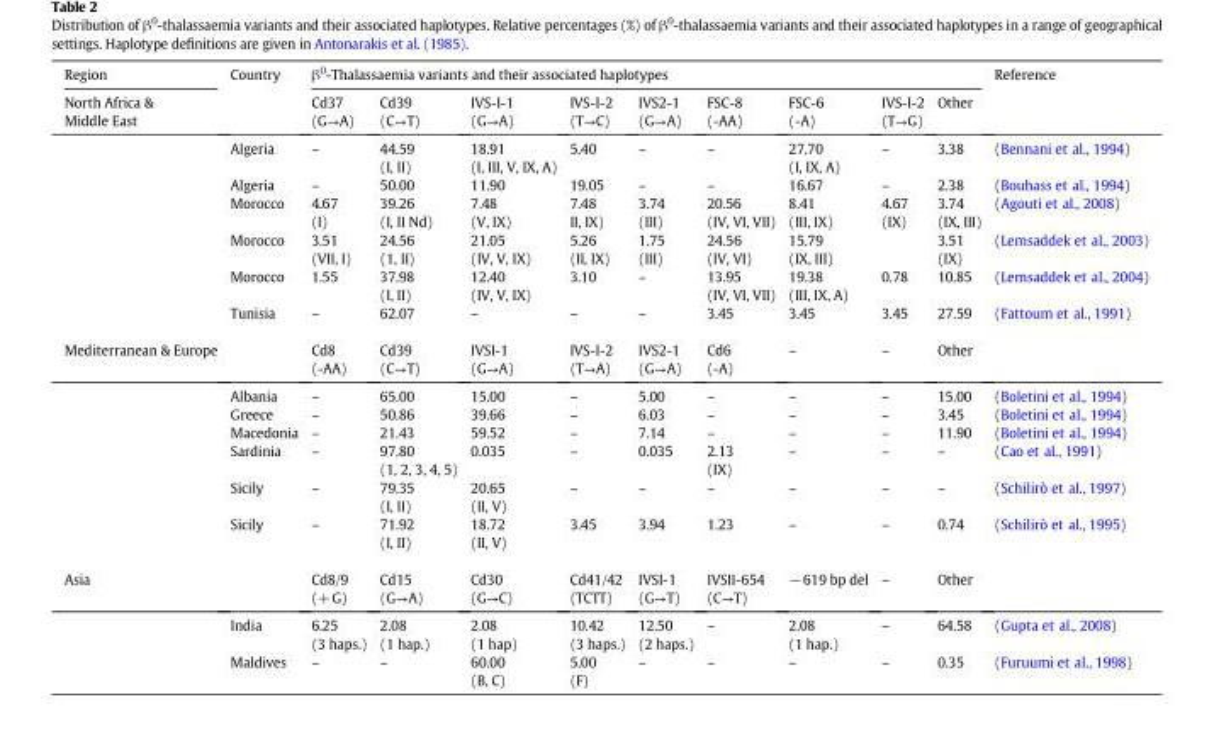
<table><thead><tr><td rowspan="2">Region North Africa &amp; Middle East</td><td rowspan="2">Country</td><td colspan="9">β<sup>0</sup>-Thalassaemia variants and their associated haplotypes</td><td rowspan="2">Reference</td></tr><tr><td>Cd37 (G→A)</td><td>Cd39 (C→T)</td><td>IVS-I-1 (G→A)</td><td>IVS-I-2 (T→C)</td><td>IVS2-1 (G→A)</td><td>FSC-8 (-AA)</td><td>FSC-6 (-A)</td><td>IVS-I-2 (T→G)</td><td>Other</td></tr></thead><tbody><tr><td></td><td>Algeria</td><td>–</td><td>44.59 (I, II)</td><td>18.91 (I, III, V, IX, A)</td><td>5.40</td><td>–</td><td>–</td><td>27.70 (I, IX, A)</td><td>–</td><td>3.38</td><td>(Bennani et al., 1994)</td></tr><tr><td></td><td>Algeria</td><td>–</td><td>50.00</td><td>11.90</td><td>19.05</td><td>–</td><td>–</td><td>16.67</td><td>–</td><td>2.38</td><td>(Bouhass et al., 1994)</td></tr><tr><td></td><td>Morocco</td><td>4.67 (I)</td><td>39.26 (I, II Nd)</td><td>7.48 (V, IX)</td><td>7.48 II, IX)</td><td>3.74 (III)</td><td>20.56 (IV, VI, VII)</td><td>8.41 (III, IX)</td><td>4.67 (IX)</td><td>3.74 (IX, III)</td><td>(Agouti et al., 2008)</td></tr><tr><td></td><td>Morocco</td><td>3.51 (VII, I)</td><td>24.56 (1, II)</td><td>21.05 (IV, V, IX)</td><td>5.26 (II, IX)</td><td>1.75 (III)</td><td>24.56 (IV, VI)</td><td>15.79 (IX, III)</td><td></td><td>3.51 (IX)</td><td>(Lemsaddek et al., 2003)</td></tr><tr><td></td><td>Morocco</td><td>1.55</td><td>37.98 (I, II)</td><td>12.40 (IV, V, IX)</td><td>3.10</td><td>–</td><td>13.95 (IV, VI, VII)</td><td>19.38 (III, IX, A)</td><td>0.78</td><td>10.85</td><td>(Lemsaddek et al., 2004)</td></tr><tr><td></td><td>Tunisia</td><td>–</td><td>62.07</td><td>–</td><td>–</td><td>–</td><td>3.45</td><td>3.45</td><td>3.45</td><td>27.59</td><td>(Fattoum et al., 1991)</td></tr><tr><td rowspan="7">Mediterranean &amp; Europe</td><td></td><td>Cd8 (-AA)</td><td>Cd39 (C→T)</td><td>IVSI-1 (G→A)</td><td>IVS-I-2 (T→A)</td><td>IVS2-1 (G→A)</td><td>Cd6 (-A)</td><td>–</td><td>–</td><td>Other</td><td></td></tr><tr><td>Albania</td><td>–</td><td>65.00</td><td>15.00</td><td>–</td><td>5.00</td><td>–</td><td>–</td><td>–</td><td>15.00</td><td>(Boletini et al., 1994)</td></tr><tr><td>Greece</td><td>–</td><td>50.86</td><td>39.66</td><td>–</td><td>6.03</td><td>–</td><td>–</td><td>–</td><td>3.45</td><td>(Boletini et al., 1994)</td></tr><tr><td>Macedonia</td><td>–</td><td>21.43</td><td>59.52</td><td>–</td><td>7.14</td><td>–</td><td>–</td><td>–</td><td>11.90</td><td>(Boletini et al., 1994)</td></tr><tr><td>Sardinia</td><td>–</td><td>97.80 (1, 2, 3, 4, 5)</td><td>0.035</td><td>–</td><td>0.035</td><td>2.13 (IX)</td><td>–</td><td>–</td><td>–</td><td>(Cao et al., 1991)</td></tr><tr><td>Sicily</td><td>–</td><td>79.35 (I, II)</td><td>20.65 (II, V)</td><td>–</td><td>–</td><td>–</td><td>–</td><td>–</td><td>–</td><td>(Schilirò et al., 1997)</td></tr><tr><td>Sicily</td><td>–</td><td>71.92 (I, II)</td><td>18.72 (II, V)</td><td>3.45</td><td>3.94</td><td>1.23</td><td>–</td><td>–</td><td>0.74</td><td>(Schilirò et al., 1995)</td></tr><tr><td rowspan="3">Asia</td><td></td><td>Cd8/9 (+G)</td><td>Cd15 (G→A)</td><td>Cd30 (G→C)</td><td>Cd41/42 (TCTT)</td><td>IVSI-1 (G→T)</td><td>IVSII-654 (C→T)</td><td>−619 bp del</td><td>–</td><td>Other</td><td></td></tr><tr><td>India</td><td>6.25 (3 haps.)</td><td>2.08 (1 hap.)</td><td>2.08 (1 hap)</td><td>10.42 (3 haps.)</td><td>12.50 (2 haps.)</td><td>–</td><td>2.08 (1 hap.)</td><td>–</td><td>64.58</td><td>(Gupta et al., 2008)</td></tr><tr><td>Maldives</td><td>–</td><td>–</td><td>60.00 (B, C)</td><td>5.00 (F)</td><td>–</td><td>–</td><td>–</td><td>–</td><td>0.35</td><td>(Furuumi et al., 1998)</td></tr></tbody></table>